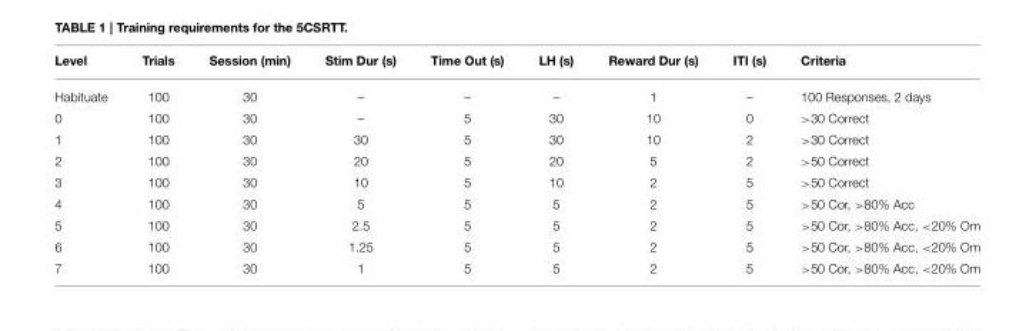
<table><thead><tr><td>Level</td><td>Trials</td><td>Session (min)</td><td>Stim Dur (s)</td><td>Time Out (s)</td><td>LH (s)</td><td>Reward Dur (s)</td><td>ITI (s)</td><td>Criteria</td></tr></thead><tbody><tr><td>Habituate</td><td>100</td><td>30</td><td>–</td><td>–</td><td>–</td><td>1</td><td>–</td><td>100 Responses, 2 days</td></tr><tr><td>0</td><td>100</td><td>30</td><td>–</td><td>5</td><td>30</td><td>10</td><td>0</td><td>&gt;30 Correct</td></tr><tr><td>1</td><td>100</td><td>30</td><td>30</td><td>5</td><td>30</td><td>10</td><td>2</td><td>&gt;30 Correct</td></tr><tr><td>2</td><td>100</td><td>30</td><td>20</td><td>5</td><td>20</td><td>5</td><td>2</td><td>&gt;50 Correct</td></tr><tr><td>3</td><td>100</td><td>30</td><td>10</td><td>5</td><td>10</td><td>2</td><td>5</td><td>&gt;50 Correct</td></tr><tr><td>4</td><td>100</td><td>30</td><td>5</td><td>5</td><td>5</td><td>2</td><td>5</td><td>&gt;50 Cor, &gt;80% Acc</td></tr><tr><td>5</td><td>100</td><td>30</td><td>2.5</td><td>5</td><td>5</td><td>2</td><td>5</td><td>&gt;50 Cor, &gt;80% Acc, &lt;20% Om</td></tr><tr><td>6</td><td>100</td><td>30</td><td>1.25</td><td>5</td><td>5</td><td>2</td><td>5</td><td>&gt;50 Cor, &gt;80% Acc, &lt;20% Om</td></tr><tr><td>7</td><td>100</td><td>30</td><td>1</td><td>5</td><td>5</td><td>2</td><td>5</td><td>&gt;50 Cor, &gt;80% Acc, &lt;20% Om</td></tr></tbody></table>